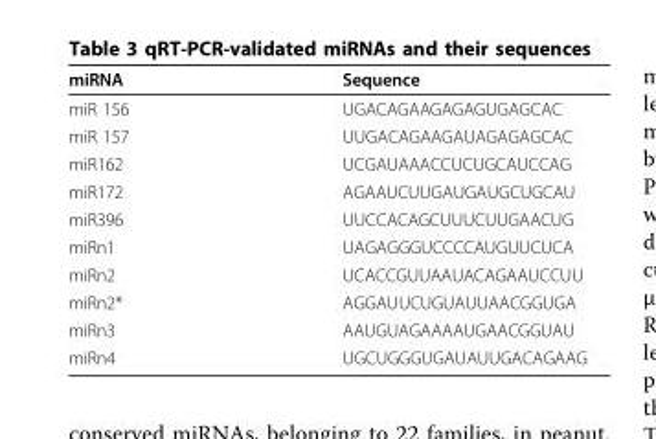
<table><thead><tr><td>miRNA</td><td>Sequence</td></tr></thead><tbody><tr><td>miR 156</td><td>UGACAGAAGAGAGUGAGCAC</td></tr><tr><td>miR 157</td><td>UUGACAGAAGAUAGAGAGCAC</td></tr><tr><td>miR162</td><td>UCGAUAAACCUCUGCAUCCAG</td></tr><tr><td>miR172</td><td>AGAAUCUUGAUGAUGCUGCAU</td></tr><tr><td>miR396</td><td>UUCCACAGCUUUCUUGAACUG</td></tr><tr><td>miRn1</td><td>UAGAGGGUCCCCAUGUUCUCA</td></tr><tr><td>miRn2</td><td>UCACCGUUAAUACAGAAUCCUU</td></tr><tr><td>miRn2*</td><td>AGGAUUCUGUAUUAACGGUGA</td></tr><tr><td>miRn3</td><td>AAUGUAGAAAAUGAACGGUAU</td></tr><tr><td>miRn4</td><td>UGCUGGGUGAUAUUGACAGAAG</td></tr></tbody></table>